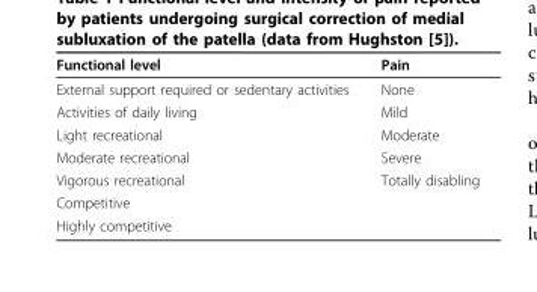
<table><thead><tr><td>Functional level</td><td>Pain</td></tr></thead><tbody><tr><td>External support required or sedentary activities</td><td>None</td></tr><tr><td>Activities of daily living</td><td>Mild</td></tr><tr><td>Light recreational</td><td>Moderate</td></tr><tr><td>Moderate recreational</td><td>Severe</td></tr><tr><td>Vigorous recreational</td><td>Totally disabling</td></tr><tr><td colspan="2">Competitive</td></tr><tr><td>Highly competitive</td><td></td></tr></tbody></table>